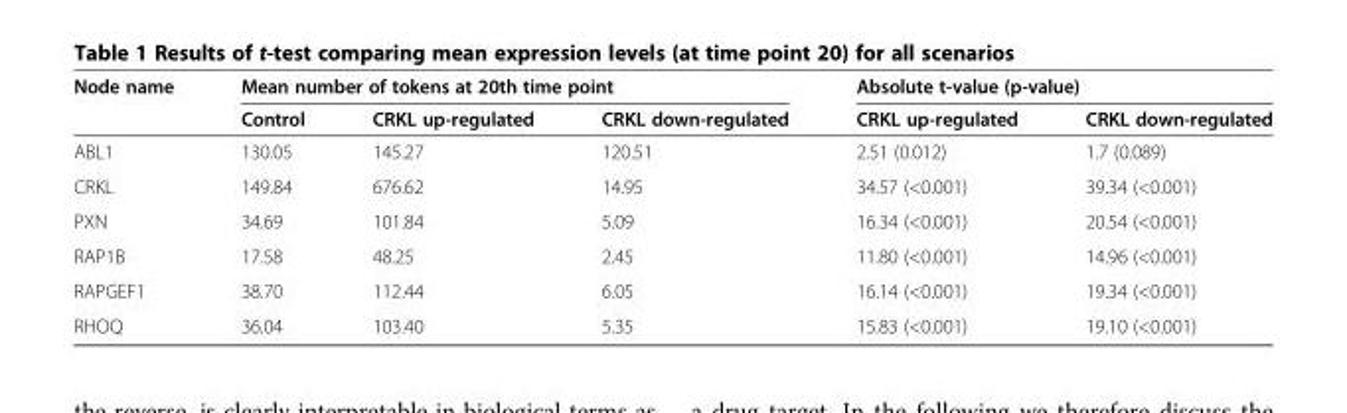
<table><thead><tr><td rowspan="2">Node name</td><td colspan="3">Mean number of tokens at 20th time point</td><td colspan="2">Absolute t-value (p-value)</td></tr><tr><td>Control</td><td>CRKL up-regulated</td><td>CRKL down-regulated</td><td>CRKL up-regulated</td><td>CRKL down-regulated</td></tr></thead><tbody><tr><td>ABL1</td><td>130.05</td><td>145.27</td><td>120.51</td><td>2.51 (0.012)</td><td>1.7 (0.089)</td></tr><tr><td>CRKL</td><td>149.84</td><td>676.62</td><td>14.95</td><td>34.57 (&lt;0.001)</td><td>39.34 (&lt;0.001)</td></tr><tr><td>PXN</td><td>34.69</td><td>101.84</td><td>5.09</td><td>16.34 (&lt;0.001)</td><td>20.54 (&lt;0.001)</td></tr><tr><td>RAP1B</td><td>17.58</td><td>48.25</td><td>2.45</td><td>11.80 (&lt;0.001)</td><td>14.96 (&lt;0.001)</td></tr><tr><td>RAPGEF1</td><td>38.70</td><td>112.44</td><td>6.05</td><td>16.14 (&lt;0.001)</td><td>19.34 (&lt;0.001)</td></tr><tr><td>RHOQ</td><td>36.04</td><td>103.40</td><td>5.35</td><td>15.83 (&lt;0.001)</td><td>19.10 (&lt;0.001)</td></tr></tbody></table>